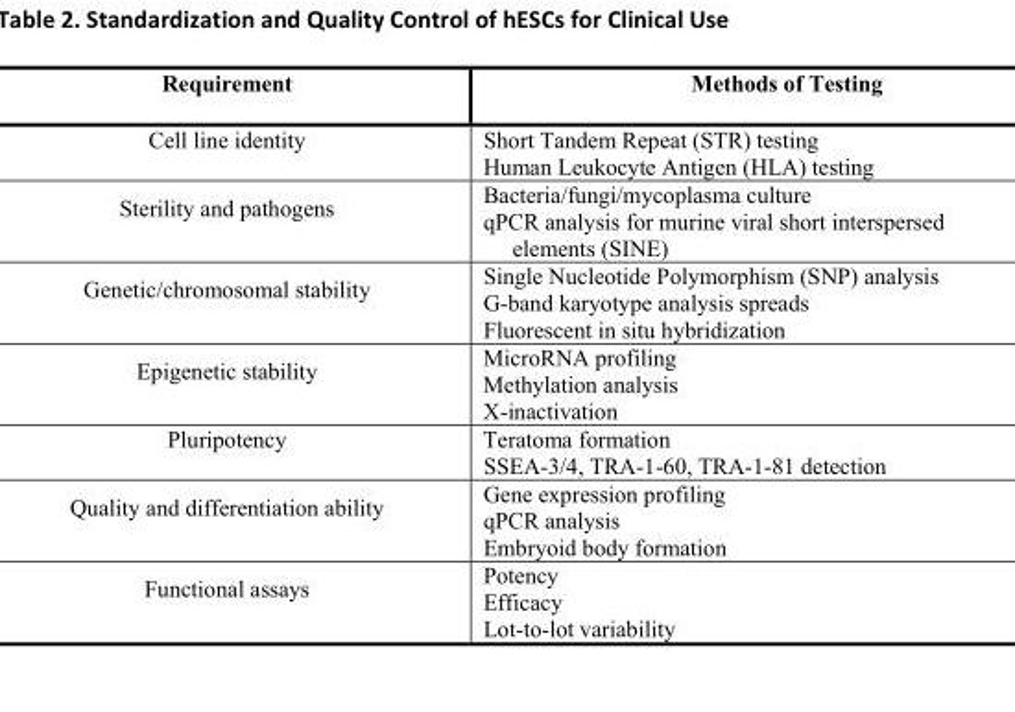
<table><thead><tr><td>Requirement</td><td>Methods of Testing</td></tr></thead><tbody><tr><td>Cell line identity</td><td>Short Tandem Repeat (STR) testing Human Leukocyte Antigen (HLA) testing</td></tr><tr><td>Sterility and pathogens</td><td>Bacteria/fungi/mycoplasma culture qPCR analysis for murine viral short interspersed elements (SINE)</td></tr><tr><td>Genetic/chromosomal stability</td><td>Single Nucleotide Polymorphism (SNP) analysis G-band karyotype analysis spreads Fluorescent in situ hybridization</td></tr><tr><td>Epigenetic stability</td><td>MicroRNA profiling Methylation analysis X-inactivation</td></tr><tr><td>Pluripotency</td><td>Teratoma formation SSEA-3/4, TRA-1-60, TRA-1-81 detection</td></tr><tr><td>Quality and differentiation ability</td><td>Gene expression profiling qPCR analysis Embryoid body formation</td></tr><tr><td>Functional assays</td><td>Potency Efficacy Lot-to-lot variability</td></tr></tbody></table>